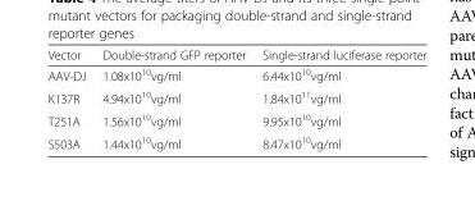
<table><thead><tr><td>Vector</td><td>Double-strand GFP reporter</td><td>Single-strand luciferase reporter</td></tr></thead><tbody><tr><td>AAV-DJ</td><td>1.08x10<sup>10</sup>vg/ml</td><td>6.44x10<sup>10</sup>vg/ml</td></tr><tr><td>K137R</td><td>4.94x10<sup>10</sup>vg/ml</td><td>1.84x10<sup>11</sup>vg/ml</td></tr><tr><td>T251A</td><td>1.56x10<sup>10</sup>vg/ml</td><td>9.95x10<sup>10</sup>vg/ml</td></tr><tr><td>S503A</td><td>1.44x10<sup>10</sup>vg/ml</td><td>8.47x10<sup>10</sup>vg/ml</td></tr></tbody></table>